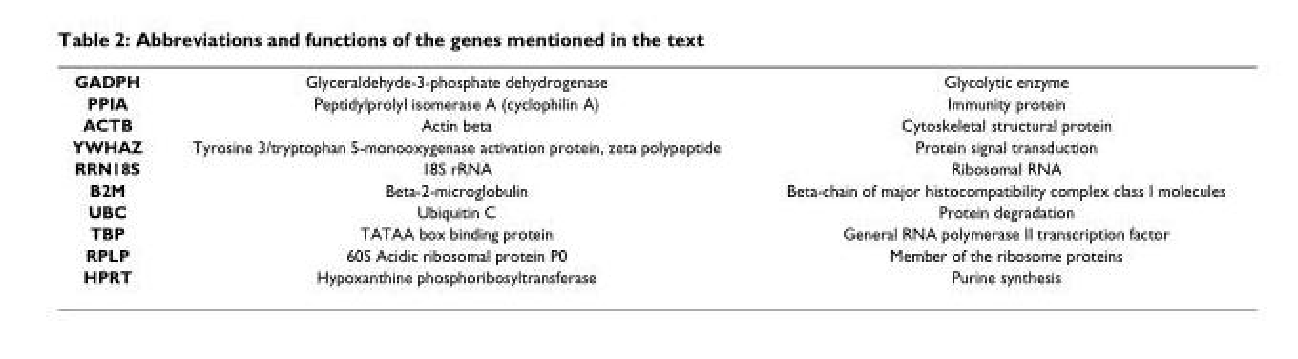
<table><tbody><tr><td>GADPH</td><td>Glyceraldehyde-3-phosphate dehydrogenase</td><td>Glycolytic enzyme</td></tr><tr><td>PPIA</td><td>Peptidylprolyl isomerase A (cyclophilin A)</td><td>Immunity protein</td></tr><tr><td>ACTB</td><td>Actin beta</td><td>Cytoskeletal structural protein</td></tr><tr><td>YWHAZ</td><td>Tyrosine 3/tryptophan 5-monooxygenase activation protein, zeta polypeptide</td><td>Protein signal transduction</td></tr><tr><td>RRN18S</td><td>18S rRNA</td><td>Ribosomal RNA</td></tr><tr><td>B2M</td><td>Beta-2-microglobulin</td><td>Beta-chain of major histocompatibility complex class I molecules</td></tr><tr><td>UBC</td><td>Ubiquitin C</td><td>Protein degradation</td></tr><tr><td>TBP</td><td>TATAA box binding protein</td><td>General RNA polymerase II transcription factor</td></tr><tr><td>RPLP</td><td>60S Acidic ribosomal protein P0</td><td>Member of the ribosome proteins</td></tr><tr><td>HPRT</td><td>Hypoxanthine phosphoribosyltransferase</td><td>Purine synthesis</td></tr></tbody></table>